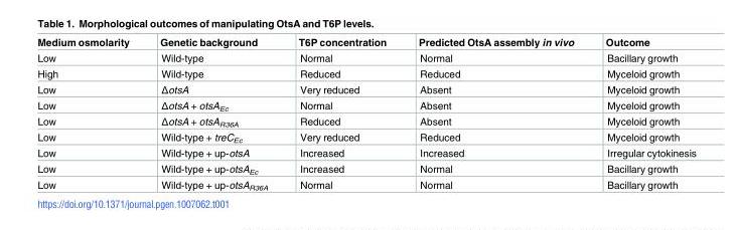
<table><thead><tr><td>Medium osmolarity</td><td>Genetic background</td><td>T6P concentration</td><td>Predicted OtsA assembly in vivo</td><td>Outcome</td></tr></thead><tbody><tr><td>Low</td><td>Wild-type</td><td>Normal</td><td>Normal</td><td>Bacillary growth</td></tr><tr><td>High</td><td>Wild-type</td><td>Reduced</td><td>Reduced</td><td>Myceloid growth</td></tr><tr><td>Low</td><td>ΔotsA</td><td>Very reduced</td><td>Absent</td><td>Myceloid growth</td></tr><tr><td>Low</td><td>ΔotsA + otsA<sub>Ec</sub></td><td>Normal</td><td>Absent</td><td>Myceloid growth</td></tr><tr><td>Low</td><td>ΔotsA + otsA<sub>R36A</sub></td><td>Reduced</td><td>Absent</td><td>Myceloid growth</td></tr><tr><td>Low</td><td>Wild-type + treC<sub>Ec</sub></td><td>Very reduced</td><td>Reduced</td><td>Myceloid growth</td></tr><tr><td>Low</td><td>Wild-type + up-otsA</td><td>Increased</td><td>Increased</td><td>Irregular cytokinesis</td></tr><tr><td>Low</td><td>Wild-type + up-otsA<sub>Ec</sub></td><td>Increased</td><td>Normal</td><td>Bacillary growth</td></tr><tr><td>Low</td><td>Wild-type + up-otsA<sub>R36A</sub></td><td>Normal</td><td>Normal</td><td>Bacillary growth</td></tr></tbody></table>